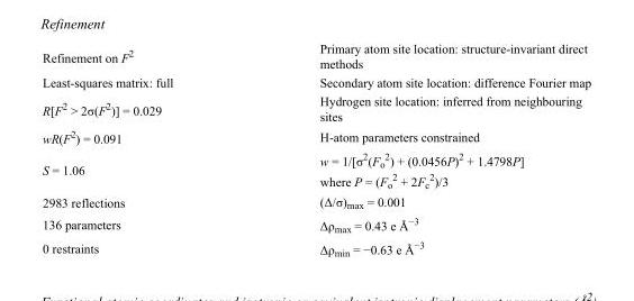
<table><tbody><tr><td>Refinement on F<sup>2</sup></td><td>Primary atom site location: structure-invariant direct methods</td></tr><tr><td>Least-squares matrix: full</td><td>Secondary atom site location: difference Fourier map</td></tr><tr><td>R[F<sup>2</sup> &gt; 2σ(F<sup>2</sup>)] = 0.029</td><td>Hydrogen site location: inferred from neighbouring sites</td></tr><tr><td>wR(F<sup>2</sup>) = 0.091</td><td>H-atom parameters constrained</td></tr><tr><td>S = 1.06</td><td>w = 1/[σ<sup>2</sup>(F<sub>o</sub> <sup>2</sup>) + (0.0456P)<sup>2</sup> + 1.4798P] where P = (F<sub>o</sub> <sup>2</sup> + 2F<sub>c</sub> <sup>2</sup>)/3</td></tr><tr><td>2983 reflections</td><td>(Δ/σ)<sub>max</sub> = 0.001</td></tr><tr><td>136 parameters</td><td>Δρ<sub>max</sub> = 0.43 e Å<sup>−3</sup></td></tr><tr><td>0 restraints</td><td>Δρ<sub>min</sub> = −0.63 e Å<sup>−3</sup></td></tr></tbody></table>